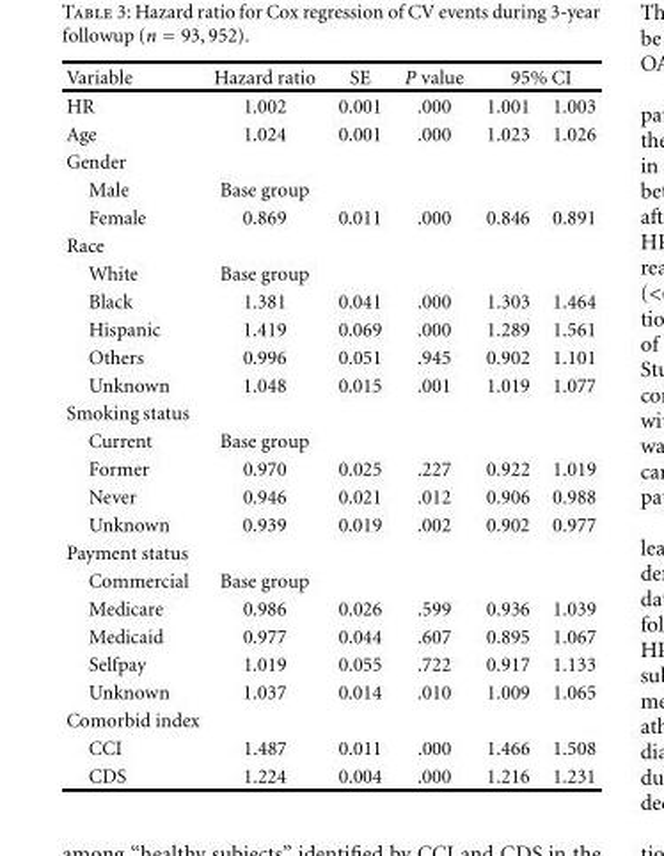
<table><thead><tr><td rowspan="2">Variable HR</td><td rowspan="2">Hazard ratio 1.002</td><td rowspan="2">SE 0.001</td><td rowspan="2">P value .000</td><td colspan="2">95% CI</td></tr><tr><td>1.001</td><td>1.003</td></tr></thead><tbody><tr><td>Age</td><td>1.024</td><td>0.001</td><td>.000</td><td>1.023</td><td>1.026</td></tr><tr><td colspan="6">Gender</td></tr><tr><td>Male</td><td>Base group</td><td></td><td></td><td></td><td></td></tr><tr><td>Female</td><td>0.869</td><td>0.011</td><td>.000</td><td>0.846</td><td>0.891</td></tr><tr><td colspan="6">Race</td></tr><tr><td>White</td><td>Base group</td><td></td><td></td><td></td><td></td></tr><tr><td>Black</td><td>1.381</td><td>0.041</td><td>.000</td><td>1.303</td><td>1.464</td></tr><tr><td>Hispanic</td><td>1.419</td><td>0.069</td><td>.000</td><td>1.289</td><td>1.561</td></tr><tr><td>Others</td><td>0.996</td><td>0.051</td><td>.945</td><td>0.902</td><td>1.101</td></tr><tr><td>Unknown</td><td>1.048</td><td>0.015</td><td>.001</td><td>1.019</td><td>1.077</td></tr><tr><td colspan="6">Smoking status</td></tr><tr><td>Current</td><td>Base group</td><td></td><td></td><td></td><td></td></tr><tr><td>Former</td><td>0.970</td><td>0.025</td><td>.227</td><td>0.922</td><td>1.019</td></tr><tr><td>Never</td><td>0.946</td><td>0.021</td><td>.012</td><td>0.906</td><td>0.988</td></tr><tr><td>Unknown</td><td>0.939</td><td>0.019</td><td>.002</td><td>0.902</td><td>0.977</td></tr><tr><td colspan="6">Payment status</td></tr><tr><td>Commercial</td><td>Base group</td><td></td><td></td><td></td><td></td></tr><tr><td>Medicare</td><td>0.986</td><td>0.026</td><td>.599</td><td>0.936</td><td>1.039</td></tr><tr><td>Medicaid</td><td>0.977</td><td>0.044</td><td>.607</td><td>0.895</td><td>1.067</td></tr><tr><td>Selfpay</td><td>1.019</td><td>0.055</td><td>.722</td><td>0.917</td><td>1.133</td></tr><tr><td>Unknown</td><td>1.037</td><td>0.014</td><td>.010</td><td>1.009</td><td>1.065</td></tr><tr><td colspan="6">Comorbid index</td></tr><tr><td>CCI</td><td>1.487</td><td>0.011</td><td>.000</td><td>1.466</td><td>1.508</td></tr><tr><td>CDS</td><td>1.224</td><td>0.004</td><td>.000</td><td>1.216</td><td>1.231</td></tr></tbody></table>